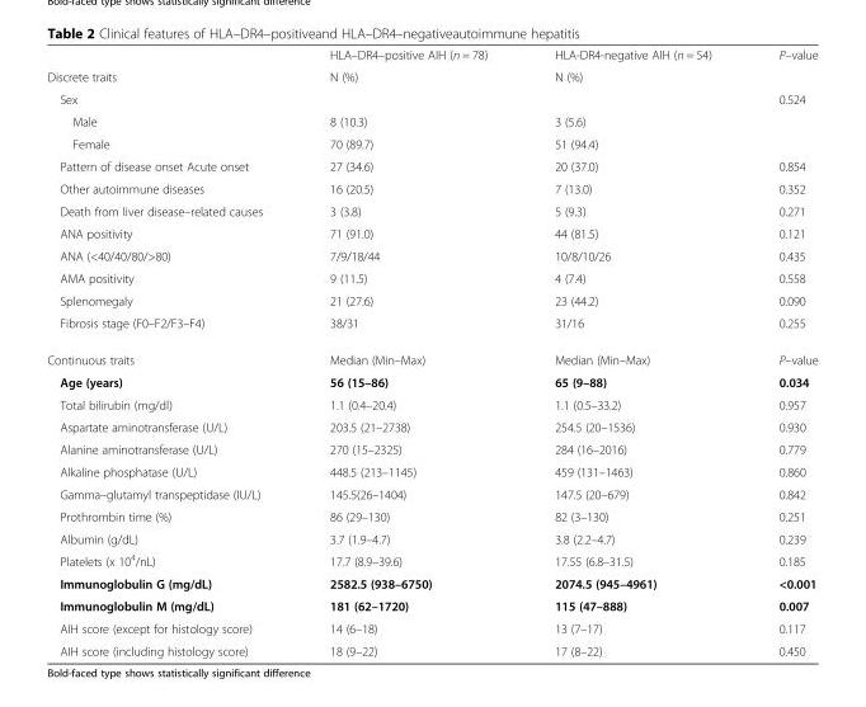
<table><thead><tr><td></td><td>HLA–DR4–positive AIH (n = 78)</td><td>HLA-DR4-negative AIH (n = 54)</td><td>P–value</td></tr></thead><tbody><tr><td>Discrete traits</td><td>N (%)</td><td>N (%)</td><td></td></tr><tr><td colspan="3">Sex</td><td rowspan="3">0.524</td></tr><tr><td>Male</td><td>8 (10.3)</td><td>3 (5.6)</td></tr><tr><td>Female</td><td>70 (89.7)</td><td>51 (94.4)</td></tr><tr><td>Pattern of disease onset Acute onset</td><td>27 (34.6)</td><td>20 (37.0)</td><td>0.854</td></tr><tr><td>Other autoimmune diseases</td><td>16 (20.5)</td><td>7 (13.0)</td><td>0.352</td></tr><tr><td>Death from liver disease–related causes</td><td>3 (3.8)</td><td>5 (9.3)</td><td>0.271</td></tr><tr><td>ANA positivity</td><td>71 (91.0)</td><td>44 (81.5)</td><td>0.121</td></tr><tr><td>ANA (&lt;40/40/80/&gt;80)</td><td>7/9/18/44</td><td>10/8/10/26</td><td>0.435</td></tr><tr><td>AMA positivity</td><td>9 (11.5)</td><td>4 (7.4)</td><td>0.558</td></tr><tr><td>Splenomegaly</td><td>21 (27.6)</td><td>23 (44.2)</td><td>0.090</td></tr><tr><td>Fibrosis stage (F0–F2/F3–F4)</td><td>38/31</td><td>31/16</td><td>0.255</td></tr><tr><td>Continuous traits</td><td>Median (Min–Max)</td><td>Median (Min–Max)</td><td>P–value</td></tr><tr><td>Age (years)</td><td>56 (15–86)</td><td>65 (9–88)</td><td>0.034</td></tr><tr><td>Total bilirubin (mg/dl)</td><td>1.1 (0.4–20.4)</td><td>1.1 (0.5–33.2)</td><td>0.957</td></tr><tr><td>Aspartate aminotransferase (U/L)</td><td>203.5 (21–2738)</td><td>254.5 (20–1536)</td><td>0.930</td></tr><tr><td>Alanine aminotransferase (U/L)</td><td>270 (15–2325)</td><td>284 (16–2016)</td><td>0.779</td></tr><tr><td>Alkaline phosphatase (U/L)</td><td>448.5 (213–1145)</td><td>459 (131–1463)</td><td>0.860</td></tr><tr><td>Gamma–glutamyl transpeptidase (IU/L)</td><td>145.5(26–1404)</td><td>147.5 (20–679)</td><td>0.842</td></tr><tr><td>Prothrombin time (%)</td><td>86 (29–130)</td><td>82 (3–130)</td><td>0.251</td></tr><tr><td>Albumin (g/dL)</td><td>3.7 (1.9–4.7)</td><td>3.8 (2.2–4.7)</td><td>0.239</td></tr><tr><td>Platelets (x 10<sup>4</sup>/nL)</td><td>17.7 (8.9–39.6)</td><td>17.55 (6.8–31.5)</td><td>0.185</td></tr><tr><td>Immunoglobulin G (mg/dL)</td><td>2582.5 (938–6750)</td><td>2074.5 (945–4961)</td><td>&lt;0.001</td></tr><tr><td>Immunoglobulin M (mg/dL)</td><td>181 (62–1720)</td><td>115 (47–888)</td><td>0.007</td></tr><tr><td>AIH score (except for histology score)</td><td>14 (6–18)</td><td>13 (7–17)</td><td>0.117</td></tr><tr><td>AIH score (including histology score)</td><td>18 (9–22)</td><td>17 (8–22)</td><td>0.450</td></tr></tbody></table>